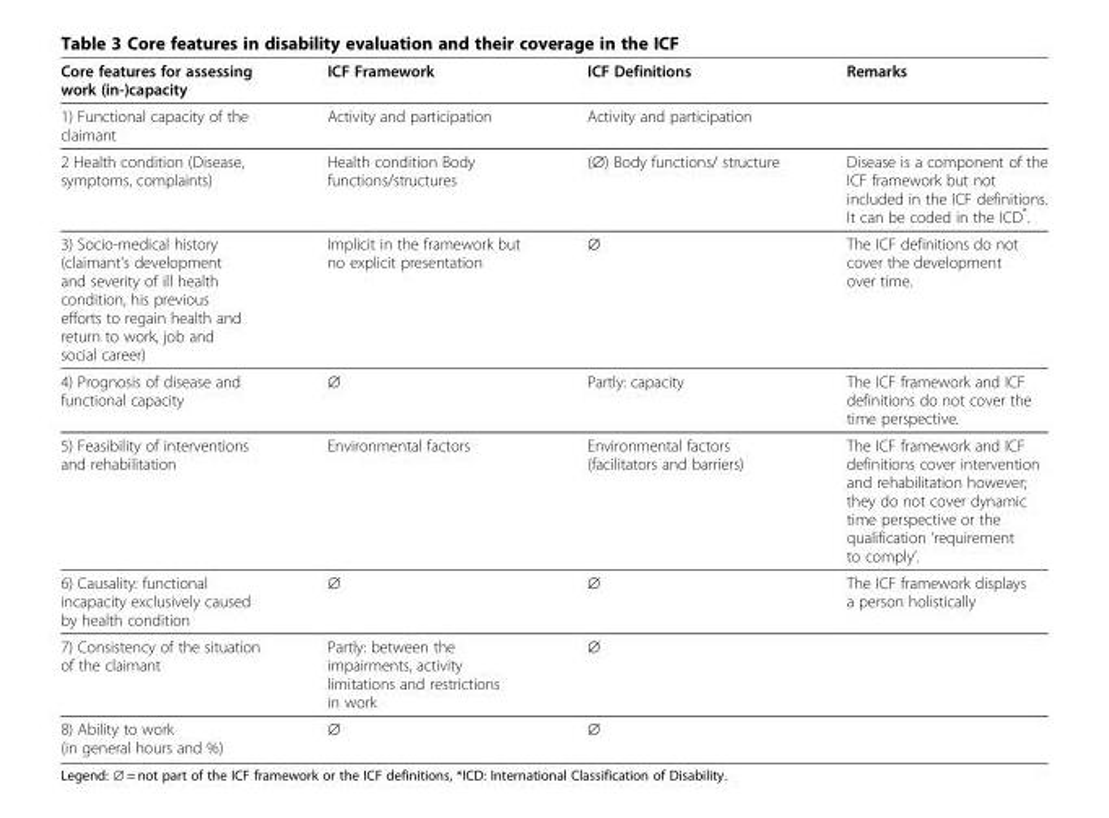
<table><thead><tr><td>Core features for assessing work (in-)capacity</td><td>ICF Framework</td><td>ICF Definitions</td><td>Remarks</td></tr></thead><tbody><tr><td>1) Functional capacity of the claimant</td><td>Activity and participation</td><td>Activity and participation</td><td></td></tr><tr><td>2 Health condition (Disease, symptoms, complaints)</td><td>Health condition Body functions/structures</td><td>(∅) Body functions/ structure</td><td>Disease is a component of the ICF framework but not included in the ICF definitions. It can be coded in the ICD*.</td></tr><tr><td>3) Socio-medical history (claimant&#x27;s development and severity of ill health condition, his previous efforts to regain health and return to work, job and social career)</td><td>Implicit in the framework but no explicit presentation</td><td>∅</td><td>The ICF definitions do not cover the development over time.</td></tr><tr><td>4) Prognosis of disease and functional capacity</td><td>∅</td><td>Partly: capacity</td><td>The ICF framework and ICF definitions do not cover the time perspective.</td></tr><tr><td>5) Feasibility of interventions and rehabilitation</td><td>Environmental factors</td><td>Environmental factors (facilitators and barriers)</td><td>The ICF framework and ICF definitions cover intervention and rehabilitation however; they do not cover dynamic time perspective or the qualification ‘requirement to comply’.</td></tr><tr><td>6) Causality: functional incapacity exclusively caused by health condition</td><td>∅</td><td>∅</td><td>The ICF framework displays a person holistically</td></tr><tr><td>7) Consistency of the situation of the claimant</td><td>Partly: between the impairments, activity limitations and restrictions in work</td><td>∅</td><td></td></tr><tr><td>8) Ability to work (in general hours and %)</td><td>∅</td><td>∅</td><td></td></tr></tbody></table>